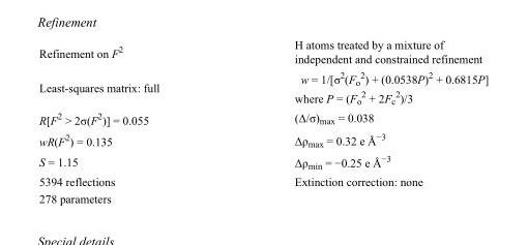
<table><tbody><tr><td>Refinement on F<sup>2</sup></td><td>H atoms treated by a mixture of independent and constrained refinement</td></tr><tr><td>Least-squares matrix: full</td><td>w = 1/[σ<sup>2</sup>(F<sub>o</sub> <sup>2</sup>) + (0.0538P)<sup>2</sup> + 0.6815P] where P = (F<sub>o</sub> <sup>2</sup> + 2F<sub>c</sub> <sup>2</sup>)/3</td></tr><tr><td>R[F<sup>2</sup> &gt; 2σ(F<sup>2</sup>)] = 0.055</td><td>(Δ/σ)<sub>max</sub> = 0.038</td></tr><tr><td>wR(F<sup>2</sup>) = 0.135</td><td>Δρ<sub>max</sub> = 0.32 e Å<sup>−3</sup></td></tr><tr><td>S = 1.15</td><td>Δρ<sub>min</sub> = −0.25 e Å<sup>−3</sup></td></tr><tr><td>5394 reflections</td><td>Extinction correction: none</td></tr><tr><td>278 parameters</td><td></td></tr></tbody></table>